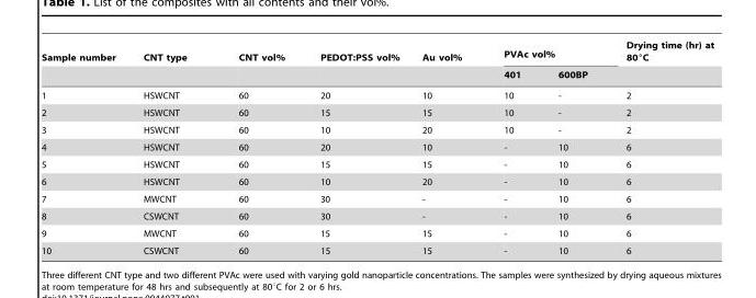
<table><thead><tr><td rowspan="2">Sample number</td><td rowspan="2">CNT type</td><td rowspan="2">CNT vol%</td><td rowspan="2">PEDOT:PSS vol%</td><td rowspan="2">Au vol%</td><td colspan="2">PVAc vol%</td><td rowspan="2">Drying time (hr) at 80°C</td></tr><tr><td>401</td><td>600BP</td></tr></thead><tbody><tr><td>1</td><td>HSWCNT</td><td>60</td><td>20</td><td>10</td><td>10</td><td>-</td><td>2</td></tr><tr><td>2</td><td>HSWCNT</td><td>60</td><td>15</td><td>15</td><td>10</td><td>-</td><td>2</td></tr><tr><td>3</td><td>HSWCNT</td><td>60</td><td>10</td><td>20</td><td>10</td><td>-</td><td>2</td></tr><tr><td>4</td><td>HSWCNT</td><td>60</td><td>20</td><td>10</td><td>-</td><td>10</td><td>6</td></tr><tr><td>5</td><td>HSWCNT</td><td>60</td><td>15</td><td>15</td><td>-</td><td>10</td><td>6</td></tr><tr><td>6</td><td>HSWCNT</td><td>60</td><td>10</td><td>20</td><td>-</td><td>10</td><td>6</td></tr><tr><td>7</td><td>MWCNT</td><td>60</td><td>30</td><td>-</td><td>-</td><td>10</td><td>6</td></tr><tr><td>8</td><td>CSWCNT</td><td>60</td><td>30</td><td>-</td><td>-</td><td>10</td><td>6</td></tr><tr><td>9</td><td>MWCNT</td><td>60</td><td>15</td><td>15</td><td>-</td><td>10</td><td>6</td></tr><tr><td>10</td><td>CSWCNT</td><td>60</td><td>15</td><td>15</td><td>-</td><td>10</td><td>6</td></tr></tbody></table>